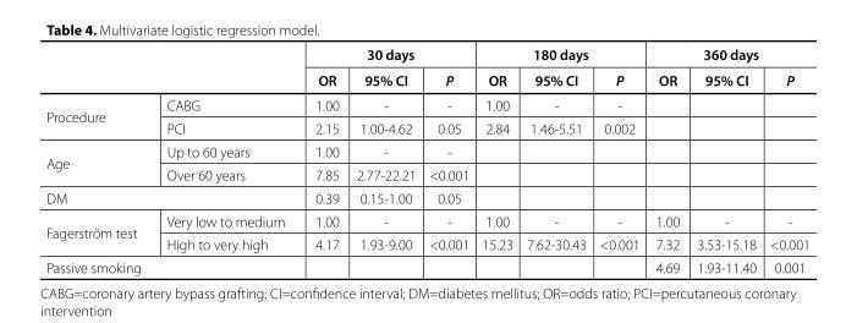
<table><thead><tr><td rowspan="2"></td><td rowspan="2"></td><td colspan="3">30 days</td><td colspan="3">180 days</td><td colspan="3">360 days</td></tr><tr><td>OR</td><td>95% CI</td><td>P</td><td>OR</td><td>95% CI</td><td>P</td><td>OR</td><td>95% CI</td><td>P</td></tr></thead><tbody><tr><td rowspan="2">Procedure</td><td>CABG</td><td>1.00</td><td>-</td><td>-</td><td>1.00</td><td>-</td><td>-</td><td></td><td></td><td></td></tr><tr><td>PCI</td><td>2.15</td><td>1.00-4.62</td><td>0.05</td><td>2.84</td><td>1.46-5.51</td><td>0.002</td><td></td><td></td><td></td></tr><tr><td rowspan="2">Age</td><td>Up to 60 years</td><td>1.00</td><td>-</td><td>-</td><td></td><td></td><td></td><td></td><td></td><td></td></tr><tr><td>Over 60 years</td><td>7.85</td><td>2.77-22.21</td><td>&lt;0.001</td><td></td><td></td><td></td><td></td><td></td><td></td></tr><tr><td colspan="2">DM</td><td>0.39</td><td>0.15-1.00</td><td>0.05</td><td></td><td></td><td></td><td></td><td></td><td></td></tr><tr><td rowspan="2">Fagerström test</td><td>Very low to medium</td><td>1.00</td><td>-</td><td>-</td><td>1.00</td><td>-</td><td>-</td><td>1.00</td><td>-</td><td>-</td></tr><tr><td>High to very high</td><td>4.17</td><td>1.93-9.00</td><td>&lt;0.001</td><td>15.23</td><td>7.62-30.43</td><td>&lt;0.001</td><td>7.32</td><td>3.53-15.18</td><td>&lt;0.001</td></tr><tr><td colspan="2">Passive smoking</td><td></td><td></td><td></td><td></td><td></td><td></td><td>4.69</td><td>1.93-11.40</td><td>0.001</td></tr></tbody></table>